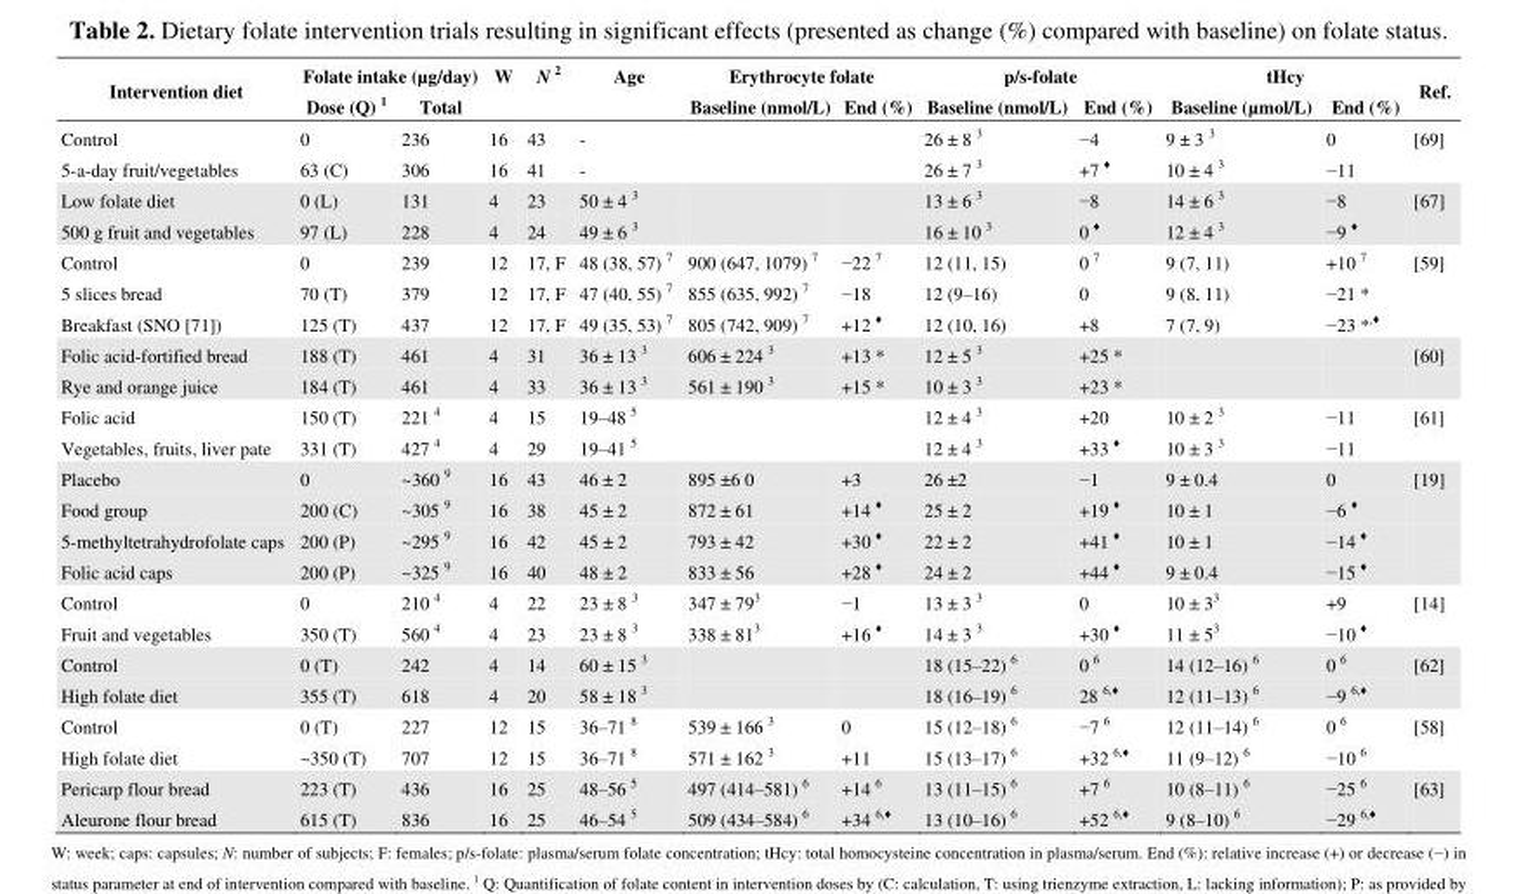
<table><thead><tr><td rowspan="2">Intervention diet</td><td colspan="2">Folate intake (µg/day)</td><td rowspan="2">W</td><td rowspan="2">N <sup>2</sup></td><td rowspan="2">Age</td><td colspan="2">Erythrocyte folate</td><td colspan="2">p/s-folate</td><td colspan="2">tHcy</td><td rowspan="2">Ref.</td></tr><tr><td>Dose (Q) <sup>1</sup></td><td>Total</td><td>Baseline (nmol/L)</td><td>End (%)</td><td>Baseline (nmol/L)</td><td>End (%)</td><td>Baseline (µmol/L)</td><td>End (%)</td></tr></thead><tbody><tr><td>Control</td><td>0</td><td>236</td><td>16</td><td>43</td><td>-</td><td></td><td></td><td>26 ± 8 <sup>3</sup></td><td>−4</td><td>9 ± 3 <sup>3</sup></td><td>0</td><td>[69]</td></tr><tr><td>5-a-day fruit/vegetables</td><td>63 (C)</td><td>306</td><td>16</td><td>41</td><td>-</td><td></td><td></td><td>26 ± 7 <sup>3</sup></td><td>+7 <sup>♦</sup></td><td>10 ± 4 <sup>3</sup></td><td>−11</td><td></td></tr><tr><td>Low folate diet</td><td>0 (L)</td><td>131</td><td>4</td><td>23</td><td>50 ± 4 <sup>3</sup></td><td></td><td></td><td>13 ± 6 <sup>3</sup></td><td>−8</td><td>14 ± 6 <sup>3</sup></td><td>−8</td><td>[67]</td></tr><tr><td>500 g fruit and vegetables</td><td>97 (L)</td><td>228</td><td>4</td><td>24</td><td>49 ± 6 <sup>3</sup></td><td></td><td></td><td>16 ± 10 <sup>3</sup></td><td>0 <sup>♦</sup></td><td>12 ± 4 <sup>3</sup></td><td>−9 <sup>♦</sup></td><td></td></tr><tr><td>Control</td><td>0</td><td>239</td><td>12</td><td>17, F</td><td>48 (38, 57) <sup>7</sup></td><td>900 (647, 1079) <sup>7</sup></td><td>−22 <sup>7</sup></td><td>12 (11, 15)</td><td>0 <sup>7</sup></td><td>9 (7, 11)</td><td>+10 <sup>7</sup></td><td>[59]</td></tr><tr><td>5 slices bread</td><td>70 (T)</td><td>379</td><td>12</td><td>17, F</td><td>47 (40, 55) <sup>7</sup></td><td>855 (635, 992) <sup>7</sup></td><td>−18</td><td>12 (9–16)</td><td>0</td><td>9 (8, 11)</td><td>−21 *</td><td></td></tr><tr><td>Breakfast (SNO [71])</td><td>125 (T)</td><td>437</td><td>12</td><td>17, F</td><td>49 (35, 53) <sup>7</sup></td><td>805 (742, 909) <sup>7</sup></td><td>+12 <sup>♦</sup></td><td>12 (10, 16)</td><td>+8</td><td>7 (7, 9)</td><td>−23 *<sup>,♦</sup></td><td></td></tr><tr><td>Folic acid-fortified bread</td><td>188 (T)</td><td>461</td><td>4</td><td>31</td><td>36 ± 13 <sup>3</sup></td><td>606 ± 224 <sup>3</sup></td><td>+13 *</td><td>12 ± 5 <sup>3</sup></td><td>+25 *</td><td></td><td></td><td>[60]</td></tr><tr><td>Rye and orange juice</td><td>184 (T)</td><td>461</td><td>4</td><td>33</td><td>36 ± 13 <sup>3</sup></td><td>561 ± 190 <sup>3</sup></td><td>+15 *</td><td>10 ± 3 <sup>3</sup></td><td>+23 *</td><td></td><td></td><td></td></tr><tr><td>Folic acid</td><td>150 (T)</td><td>221 <sup>4</sup></td><td>4</td><td>15</td><td>19–48 <sup>5</sup></td><td></td><td></td><td>12 ± 4 <sup>3</sup></td><td>+20</td><td>10 ± 2 <sup>3</sup></td><td>−11</td><td>[61]</td></tr><tr><td>Vegetables, fruits, liver pate</td><td>331 (T)</td><td>427 <sup>4</sup></td><td>4</td><td>29</td><td>19–41 <sup>5</sup></td><td></td><td></td><td>12 ± 4 <sup>3</sup></td><td>+33 <sup>♦</sup></td><td>10 ± 3 <sup>3</sup></td><td>−11</td><td></td></tr><tr><td>Placebo</td><td>0</td><td>~360 <sup>9</sup></td><td>16</td><td>43</td><td>46 ± 2</td><td>895 ±6 0</td><td>+3</td><td>26 ±2</td><td>−1</td><td>9 ± 0.4</td><td>0</td><td>[19]</td></tr><tr><td>Food group</td><td>200 (C)</td><td>~305 <sup>9</sup></td><td>16</td><td>38</td><td>45 ± 2</td><td>872 ± 61</td><td>+14 <sup>♦</sup></td><td>25 ± 2</td><td>+19 <sup>♦</sup></td><td>10 ± 1</td><td>−6 <sup>♦</sup></td><td></td></tr><tr><td>5-methyltetrahydrofolate caps</td><td>200 (P)</td><td>~295 <sup>9</sup></td><td>16</td><td>42</td><td>45 ± 2</td><td>793 ± 42</td><td>+30 <sup>♦</sup></td><td>22 ± 2</td><td>+41 <sup>♦</sup></td><td>10 ± 1</td><td>−14 <sup>♦</sup></td><td></td></tr><tr><td>Folic acid caps</td><td>200 (P)</td><td>~325 <sup>9</sup></td><td>16</td><td>40</td><td>48 ± 2</td><td>833 ± 56</td><td>+28 <sup>♦</sup></td><td>24 ± 2</td><td>+44 <sup>♦</sup></td><td>9 ± 0.4</td><td>−15 <sup>♦</sup></td><td></td></tr><tr><td>Control</td><td>0</td><td>210 <sup>4</sup></td><td>4</td><td>22</td><td>23 ± 8 <sup>3</sup></td><td>347 ± 79<sup>3</sup></td><td>−1</td><td>13 ± 3 <sup>3</sup></td><td>0</td><td>10 ± 3<sup>3</sup></td><td>+9</td><td>[14]</td></tr><tr><td>Fruit and vegetables</td><td>350 (T)</td><td>560 <sup>4</sup></td><td>4</td><td>23</td><td>23 ± 8 <sup>3</sup></td><td>338 ± 81<sup>3</sup></td><td>+16 <sup>♦</sup></td><td>14 ± 3 <sup>3</sup></td><td>+30 <sup>♦</sup></td><td>11 ± 5<sup>3</sup></td><td>−10 <sup>♦</sup></td><td></td></tr><tr><td>Control</td><td>0 (T)</td><td>242</td><td>4</td><td>14</td><td>60 ± 15 <sup>3</sup></td><td></td><td></td><td>18 (15–22) <sup>6</sup></td><td>0 <sup>6</sup></td><td>14 (12–16) <sup>6</sup></td><td>0 <sup>6</sup></td><td>[62]</td></tr><tr><td>High folate diet</td><td>355 (T)</td><td>618</td><td>4</td><td>20</td><td>58 ± 18 <sup>3</sup></td><td></td><td></td><td>18 (16–19) <sup>6</sup></td><td>28 <sup>6,♦</sup></td><td>12 (11–13) <sup>6</sup></td><td>−9 <sup>6,♦</sup></td><td></td></tr><tr><td>Control</td><td>0 (T)</td><td>227</td><td>12</td><td>15</td><td>36–71 <sup>8</sup></td><td>539 ± 166 <sup>3</sup></td><td>0</td><td>15 (12–18) <sup>6</sup></td><td>−7 <sup>6</sup></td><td>12 (11–14) <sup>6</sup></td><td>0 <sup>6</sup></td><td>[58]</td></tr><tr><td>High folate diet</td><td>~350 (T)</td><td>707</td><td>12</td><td>15</td><td>36–71 <sup>8</sup></td><td>571 ± 162 <sup>3</sup></td><td>+11</td><td>15 (13–17) <sup>6</sup></td><td>+32 <sup>6,♦</sup></td><td>11 (9–12) <sup>6</sup></td><td>−10 <sup>6</sup></td><td></td></tr><tr><td>Pericarp flour bread</td><td>223 (T)</td><td>436</td><td>16</td><td>25</td><td>48–56 <sup>5</sup></td><td>497 (414–581) <sup>6</sup></td><td>+14 <sup>6</sup></td><td>13 (11–15) <sup>6</sup></td><td>+7 <sup>6</sup></td><td>10 (8–11) <sup>6</sup></td><td>−25 <sup>6</sup></td><td>[63]</td></tr><tr><td>Aleurone flour bread</td><td>615 (T)</td><td>836</td><td>16</td><td>25</td><td>46–54 <sup>5</sup></td><td>509 (434–584) <sup>6</sup></td><td>+34 <sup>6,♦</sup></td><td>13 (10–16) <sup>6</sup></td><td>+52 <sup>6,♦</sup></td><td>9 (8–10) <sup>6</sup></td><td>−29 <sup>6,♦</sup></td><td></td></tr></tbody></table>